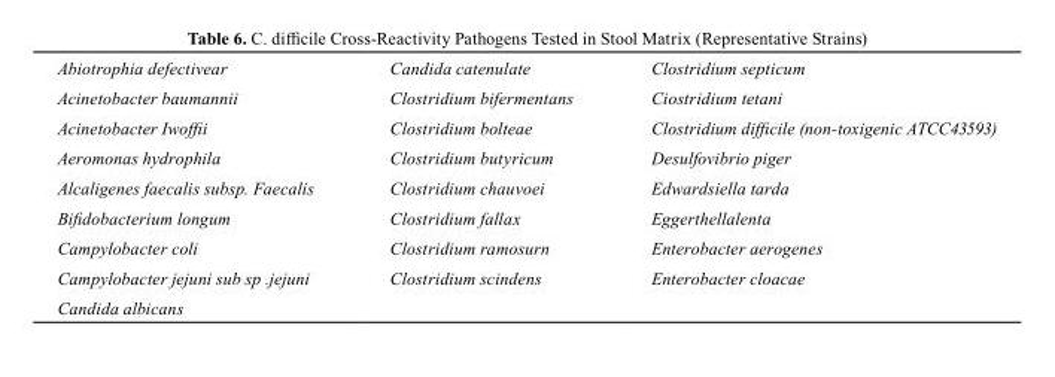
<table><tbody><tr><td>Abiotrophia defectivear</td><td>Candida catenulate</td><td>Clostridium septicum</td></tr><tr><td>Acinetobacter baumannii</td><td>Clostridium bifermentans</td><td>Ciostridium tetani</td></tr><tr><td>Acinetobacter Iwoffii</td><td>Clostridium bolteae</td><td>Clostridium difficile (non-toxigenic ATCC43593)</td></tr><tr><td>Aeromonas hydrophila</td><td>Clostridium butyricum</td><td>Desulfovibrio piger</td></tr><tr><td>Alcaligenes faecalis subsp. Faecalis</td><td>Clostridium chauvoei</td><td>Edwardsiella tarda</td></tr><tr><td>Bifidobacterium longum</td><td>Clostridium fallax</td><td>Eggerthellalenta</td></tr><tr><td>Campylobacter coli</td><td>Clostridium ramosurn</td><td>Enterobacter aerogenes</td></tr><tr><td>Campylobacter jejuni sub sp .jejuni</td><td>Clostridium scindens</td><td>Enterobacter cloacae</td></tr><tr><td>Candida albicans</td><td></td><td></td></tr></tbody></table>